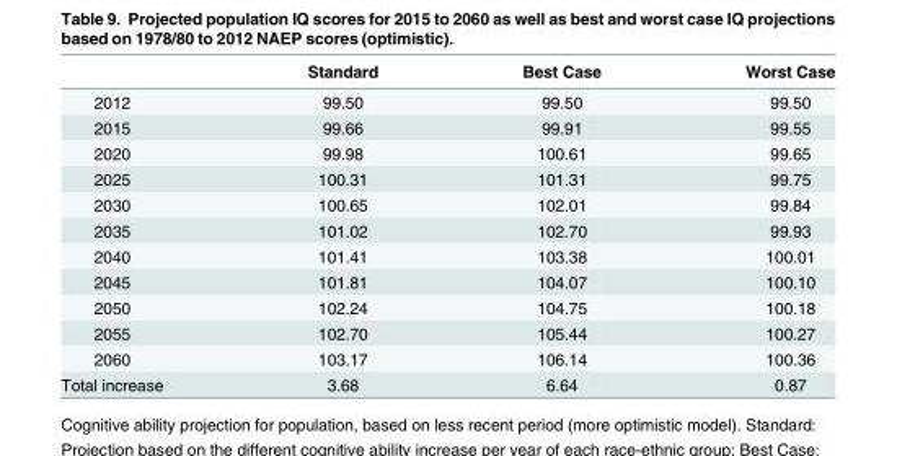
<table><thead><tr><td></td><td>Standard</td><td>Best Case</td><td>Worst Case</td></tr></thead><tbody><tr><td>2012</td><td>99.50</td><td>99.50</td><td>99.50</td></tr><tr><td>2015</td><td>99.66</td><td>99.91</td><td>99.55</td></tr><tr><td>2020</td><td>99.98</td><td>100.61</td><td>99.65</td></tr><tr><td>2025</td><td>100.31</td><td>101.31</td><td>99.75</td></tr><tr><td>2030</td><td>100.65</td><td>102.01</td><td>99.84</td></tr><tr><td>2035</td><td>101.02</td><td>102.70</td><td>99.93</td></tr><tr><td>2040</td><td>101.41</td><td>103.38</td><td>100.01</td></tr><tr><td>2045</td><td>101.81</td><td>104.07</td><td>100.10</td></tr><tr><td>2050</td><td>102.24</td><td>104.75</td><td>100.18</td></tr><tr><td>2055</td><td>102.70</td><td>105.44</td><td>100.27</td></tr><tr><td>2060</td><td>103.17</td><td>106.14</td><td>100.36</td></tr><tr><td>Total increase</td><td>3.68</td><td>6.64</td><td>0.87</td></tr></tbody></table>